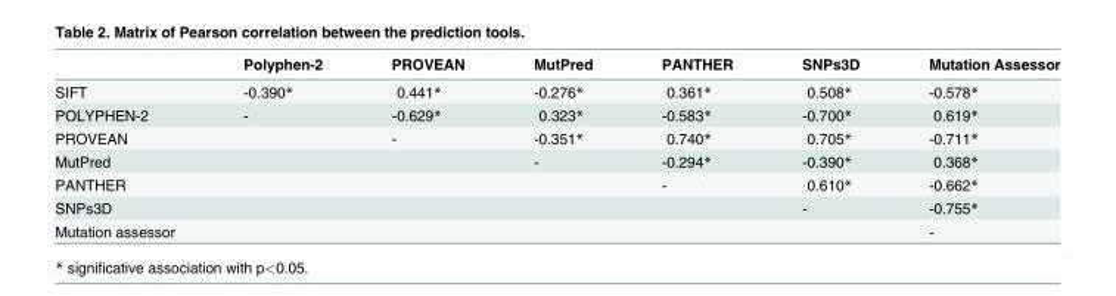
<table><thead><tr><td></td><td>Polyphen-2</td><td>PROVEAN</td><td>MutPred</td><td>PANTHER</td><td>SNPs3D</td><td>Mutation Assessor</td></tr></thead><tbody><tr><td>SIFT</td><td>-0.390*</td><td>0.441*</td><td>-0.276*</td><td>0.361*</td><td>0.508*</td><td>-0.578*</td></tr><tr><td>POLYPHEN-2</td><td>-</td><td>-0.629*</td><td>0.323*</td><td>-0.583*</td><td>-0.700*</td><td>0.619*</td></tr><tr><td>PROVEAN</td><td></td><td>-</td><td>-0.351*</td><td>0.740*</td><td>0.705*</td><td>-0.711*</td></tr><tr><td>MutPred</td><td></td><td></td><td>-</td><td>-0.294*</td><td>-0.390*</td><td>0.368*</td></tr><tr><td>PANTHER</td><td></td><td></td><td></td><td>-</td><td>0.610*</td><td>-0.662*</td></tr><tr><td>SNPs3D</td><td></td><td></td><td></td><td></td><td>-</td><td>-0.755*</td></tr><tr><td>Mutation assessor</td><td></td><td></td><td></td><td></td><td></td><td>-</td></tr></tbody></table>